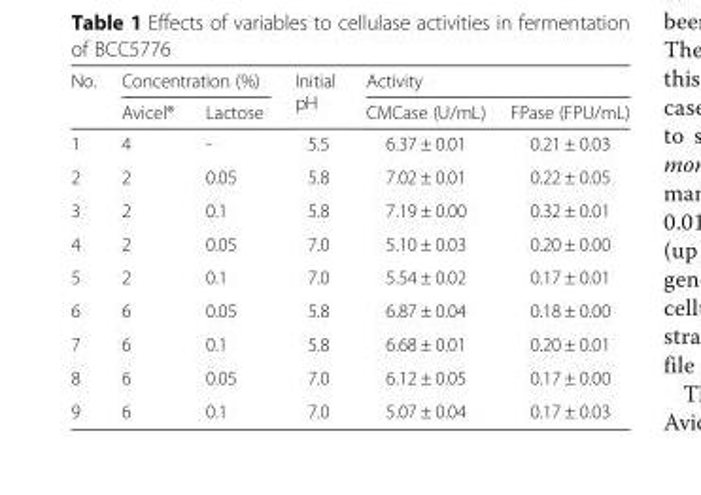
<table><thead><tr><td rowspan="2">No.</td><td colspan="2">Concentration (%)</td><td rowspan="2">Initial pH</td><td colspan="2">Activity</td></tr><tr><td>Avicel®</td><td>Lactose</td><td>CMCase (U/mL)</td><td>FPase (FPU/mL)</td></tr></thead><tbody><tr><td>1</td><td>4</td><td>-</td><td>5.5</td><td>6.37 ± 0.01</td><td>0.21 ± 0.03</td></tr><tr><td>2</td><td>2</td><td>0.05</td><td>5.8</td><td>7.02 ± 0.01</td><td>0.22 ± 0.05</td></tr><tr><td>3</td><td>2</td><td>0.1</td><td>5.8</td><td>7.19 ± 0.00</td><td>0.32 ± 0.01</td></tr><tr><td>4</td><td>2</td><td>0.05</td><td>7.0</td><td>5.10 ± 0.03</td><td>0.20 ± 0.00</td></tr><tr><td>5</td><td>2</td><td>0.1</td><td>7.0</td><td>5.54 ± 0.02</td><td>0.17 ± 0.01</td></tr><tr><td>6</td><td>6</td><td>0.05</td><td>5.8</td><td>6.87 ± 0.04</td><td>0.18 ± 0.00</td></tr><tr><td>7</td><td>6</td><td>0.1</td><td>5.8</td><td>6.68 ± 0.01</td><td>0.20 ± 0.01</td></tr><tr><td>8</td><td>6</td><td>0.05</td><td>7.0</td><td>6.12 ± 0.05</td><td>0.17 ± 0.00</td></tr><tr><td>9</td><td>6</td><td>0.1</td><td>7.0</td><td>5.07 ± 0.04</td><td>0.17 ± 0.03</td></tr></tbody></table>